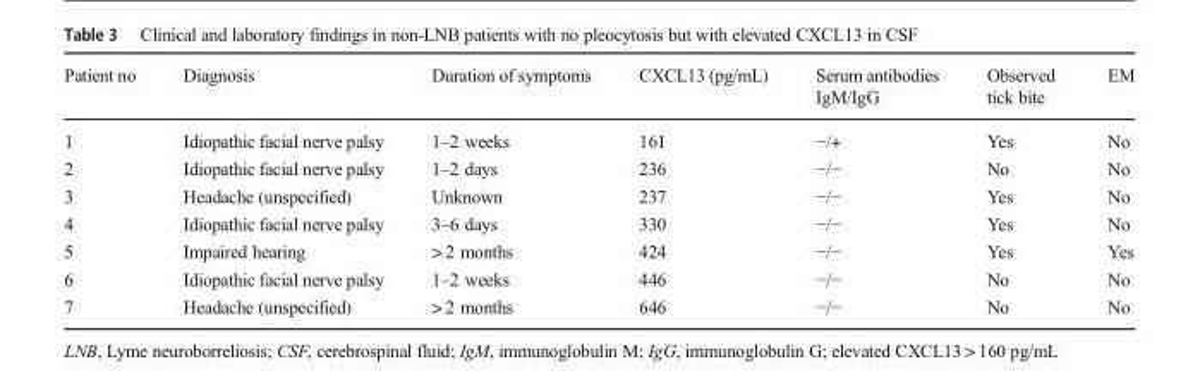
<table><thead><tr><td>Patient no</td><td>Diagnosis</td><td>Duration of symptoms</td><td>CXCL13 (pg/mL)</td><td>Serum antibodies IgM/IgG</td><td>Observed tick bite</td><td>EM</td></tr></thead><tbody><tr><td>1</td><td>Idiopathic facial nerve palsy</td><td>1–2 weeks</td><td>161</td><td>−/+</td><td>Yes</td><td>No</td></tr><tr><td>2</td><td>Idiopathic facial nerve palsy</td><td>1–2 days</td><td>236</td><td>−/−</td><td>No</td><td>No</td></tr><tr><td>3</td><td>Headache (unspecified)</td><td>Unknown</td><td>237</td><td>−/−</td><td>Yes</td><td>No</td></tr><tr><td>4</td><td>Idiopathic facial nerve palsy</td><td>3–6 days</td><td>330</td><td>−/−</td><td>Yes</td><td>No</td></tr><tr><td>5</td><td>Impaired hearing</td><td>&gt; 2 months</td><td>424</td><td>−/−</td><td>Yes</td><td>Yes</td></tr><tr><td>6</td><td>Idiopathic facial nerve palsy</td><td>1–2 weeks</td><td>446</td><td>−/−</td><td>No</td><td>No</td></tr><tr><td>7</td><td>Headache (unspecified)</td><td>&gt; 2 months</td><td>646</td><td>−/−</td><td>No</td><td>No</td></tr></tbody></table>